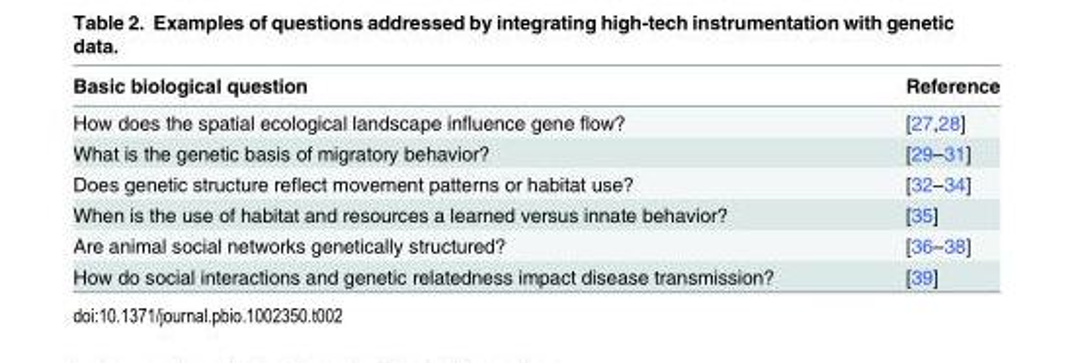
<table><thead><tr><td>Basic biological question</td><td>Reference</td></tr></thead><tbody><tr><td>How does the spatial ecological landscape influence gene flow?</td><td>[27,28]</td></tr><tr><td>What is the genetic basis of migratory behavior?</td><td>[29–31]</td></tr><tr><td>Does genetic structure reflect movement patterns or habitat use?</td><td>[32–34]</td></tr><tr><td>When is the use of habitat and resources a learned versus innate behavior?</td><td>[35]</td></tr><tr><td>Are animal social networks genetically structured?</td><td>[36–38]</td></tr><tr><td>How do social interactions and genetic relatedness impact disease transmission?</td><td>[39]</td></tr></tbody></table>